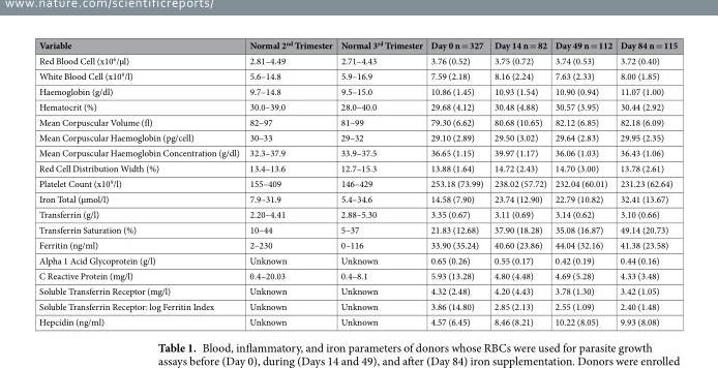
<table><thead><tr><td>Variable</td><td>Normal 2<sup>nd</sup> Trimester</td><td>Normal 3<sup>rd</sup> Trimester</td><td>Day 0 n = 327</td><td>Day 14 n = 82</td><td>Day 49 n = 112</td><td>Day 84 n = 115</td></tr></thead><tbody><tr><td>Red Blood Cell (x10<sup>6</sup>/µl)</td><td>2.81–4.49</td><td>2.71–4.43</td><td>3.76 (0.52)</td><td>3.75 (0.72)</td><td>3.74 (0.53)</td><td>3.72 (0.40)</td></tr><tr><td>White Blood Cell (x10<sup>9</sup>/l)</td><td>5.6–14.8</td><td>5.9–16.9</td><td>7.59 (2.18)</td><td>8.16 (2.24)</td><td>7.63 (2.33)</td><td>8.00 (1.85)</td></tr><tr><td>Haemoglobin (g/dl)</td><td>9.7–14.8</td><td>9.5–15.0</td><td>10.86 (1.45)</td><td>10.93 (1.54)</td><td>10.90 (0.94)</td><td>11.07 (1.00)</td></tr><tr><td>Hematocrit (%)</td><td>30.0–39.0</td><td>28.0–40.0</td><td>29.68 (4.12)</td><td>30.48 (4.88)</td><td>30.57 (3.95)</td><td>30.44 (2.92)</td></tr><tr><td>Mean Corpuscular Volume (fl)</td><td>82–97</td><td>81–99</td><td>79.30 (6.62)</td><td>80.68 (10.65)</td><td>82.12 (6.85)</td><td>82.18 (6.09)</td></tr><tr><td>Mean Corpuscular Haemoglobin (pg/cell)</td><td>30–33</td><td>29–32</td><td>29.10 (2.89)</td><td>29.50 (3.02)</td><td>29.64 (2.83)</td><td>29.95 (2.35)</td></tr><tr><td>Mean Corpuscular Haemoglobin Concentration (g/dl)</td><td>32.3–37.9</td><td>33.9–37.5</td><td>36.65 (1.15)</td><td>39.97 (1.17)</td><td>36.06 (1.03)</td><td>36.43 (1.06)</td></tr><tr><td>Red Cell Distribution Width (%)</td><td>13.4–13.6</td><td>12.7–15.3</td><td>13.88 (1.64)</td><td>14.72 (2.43)</td><td>14.70 (3.00)</td><td>13.78 (2.61)</td></tr><tr><td>Platelet Count (x10<sup>9</sup>/l)</td><td>155–409</td><td>146–429</td><td>253.18 (73.99)</td><td>238.02 (57.72)</td><td>232.04 (60.01)</td><td>231.23 (62.64)</td></tr><tr><td>Iron Total (µmol/l)</td><td>7.9–31.9</td><td>5.4–34.6</td><td>14.58 (7.90)</td><td>23.74 (12.90)</td><td>22.79 (10.82)</td><td>32.41 (13.67)</td></tr><tr><td>Transferrin (g/l)</td><td>2.20–4.41</td><td>2.88–5.30</td><td>3.35 (0.67)</td><td>3.11 (0.69)</td><td>3.14 (0.62)</td><td>3.10 (0.66)</td></tr><tr><td>Transferrin Saturation (%)</td><td>10–44</td><td>5–37</td><td>21.83 (12.68)</td><td>37.90 (18.28)</td><td>35.08 (16.87)</td><td>49.14 (20.73)</td></tr><tr><td>Ferritin (ng/ml)</td><td>2–230</td><td>0–116</td><td>33.90 (35.24)</td><td>40.60 (23.86)</td><td>44.04 (32.16)</td><td>41.38 (23.58)</td></tr><tr><td>Alpha 1 Acid Glycoprotein (g/l)</td><td>Unknown</td><td>Unknown</td><td>0.65 (0.26)</td><td>0.55 (0.17)</td><td>0.42 (0.19)</td><td>0.44 (0.16)</td></tr><tr><td>C Reactive Protein (mg/l)</td><td>0.4–20.03</td><td>0.4–8.1</td><td>5.93 (13.28)</td><td>4.80 (4.48)</td><td>4.69 (5.28)</td><td>4.33 (3.48)</td></tr><tr><td>Soluble Transferrin Receptor (mg/l)</td><td>Unknown</td><td>Unknown</td><td>4.32 (2.48)</td><td>4.20 (4.43)</td><td>3.78 (1.30)</td><td>3.42 (1.05)</td></tr><tr><td>Soluble Transferrin Receptor: log Ferritin Index</td><td>Unknown</td><td>Unknown</td><td>3.86 (14.80)</td><td>2.85 (2.13)</td><td>2.55 (1.09)</td><td>2.40 (1.48)</td></tr><tr><td>Hepcidin (ng/ml)</td><td>Unknown</td><td>Unknown</td><td>4.57 (6.45)</td><td>8.46 (8.21)</td><td>10.22 (8.05)</td><td>9.93 (8.08)</td></tr></tbody></table>